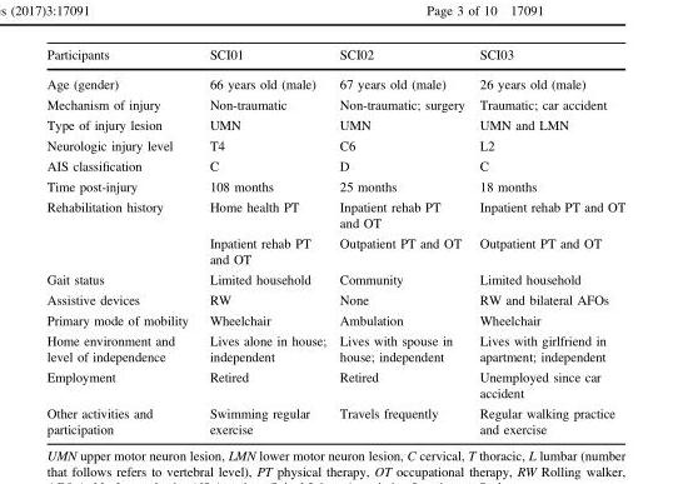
<table><thead><tr><td>Participants</td><td>SCI01</td><td>SCI02</td><td>SCI03</td></tr></thead><tbody><tr><td>Age (gender)</td><td>66 years old (male)</td><td>67 years old (male)</td><td>26 years old (male)</td></tr><tr><td>Mechanism of injury</td><td>Non-traumatic</td><td>Non-traumatic; surgery</td><td>Traumatic; car accident</td></tr><tr><td>Type of injury lesion</td><td>UMN</td><td>UMN</td><td>UMN and LMN</td></tr><tr><td>Neurologic injury level</td><td>T4</td><td>C6</td><td>L2</td></tr><tr><td>AIS classification</td><td>C</td><td>D</td><td>C</td></tr><tr><td>Time post-injury</td><td>108 months</td><td>25 months</td><td>18 months</td></tr><tr><td rowspan="2">Rehabilitation history</td><td>Home health PT</td><td>Inpatient rehab PT and OT</td><td>Inpatient rehab PT and OT</td></tr><tr><td>Inpatient rehab PT and OT</td><td>Outpatient PT and OT</td><td>Outpatient PT and OT</td></tr><tr><td>Gait status</td><td>Limited household</td><td>Community</td><td>Limited household</td></tr><tr><td>Assistive devices</td><td>RW</td><td>None</td><td>RW and bilateral AFOs</td></tr><tr><td>Primary mode of mobility</td><td>Wheelchair</td><td>Ambulation</td><td>Wheelchair</td></tr><tr><td>Home environment and level of independence</td><td>Lives alone in house; independent</td><td>Lives with spouse in house; independent</td><td>Lives with girlfriend in apartment; independent</td></tr><tr><td>Employment</td><td>Retired</td><td>Retired</td><td>Unemployed since car accident</td></tr><tr><td>Other activities and participation</td><td>Swimming regular exercise</td><td>Travels frequently</td><td>Regular walking practice and exercise</td></tr></tbody></table>